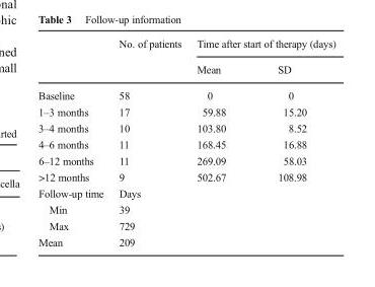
<table><thead><tr><td rowspan="2"></td><td rowspan="2">No. of patients</td><td colspan="2">Time after start of therapy (days)</td></tr><tr><td>Mean</td><td>SD</td></tr></thead><tbody><tr><td>Baseline</td><td>58</td><td>0</td><td>0</td></tr><tr><td>1–3 months</td><td>17</td><td>59.88</td><td>15.20</td></tr><tr><td>3–4 months</td><td>10</td><td>103.80</td><td>8.52</td></tr><tr><td>4–6 months</td><td>11</td><td>168.45</td><td>16.88</td></tr><tr><td>6–12 months</td><td>11</td><td>269.09</td><td>58.03</td></tr><tr><td>&gt;12 months</td><td>9</td><td>502.67</td><td>108.98</td></tr><tr><td>Follow-up time</td><td>Days</td><td></td><td></td></tr><tr><td>Min</td><td>39</td><td></td><td></td></tr><tr><td>Max</td><td>729</td><td></td><td></td></tr><tr><td>Mean</td><td>209</td><td></td><td></td></tr></tbody></table>